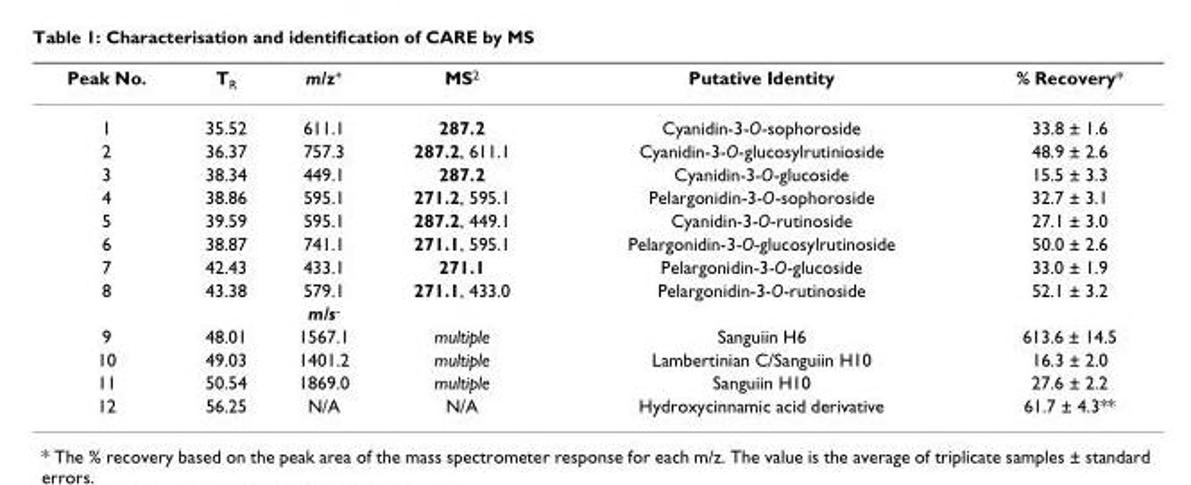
<table><thead><tr><td>Peak No.</td><td>T<sub>R</sub></td><td>m/z<sup>+</sup></td><td>MS<sup>2</sup></td><td>Putative Identity</td><td>% Recovery*</td></tr></thead><tbody><tr><td>1</td><td>35.52</td><td>611.1</td><td>287.2</td><td>Cyanidin-3-O-sophoroside</td><td>33.8 ± 1.6</td></tr><tr><td>2</td><td>36.37</td><td>757.3</td><td>287.2, 611.1</td><td>Cyanidin-3-O-glucosylrutinioside</td><td>48.9 ± 2.6</td></tr><tr><td>3</td><td>38.34</td><td>449.1</td><td>287.2</td><td>Cyanidin-3-O-glucoside</td><td>15.5 ± 3.3</td></tr><tr><td>4</td><td>38.86</td><td>595.1</td><td>271.2, 595.1</td><td>Pelargonidin-3-O-sophoroside</td><td>32.7 ± 3.1</td></tr><tr><td>5</td><td>39.59</td><td>595.1</td><td>287.2, 449.1</td><td>Cyanidin-3-O-rutinoside</td><td>27.1 ± 3.0</td></tr><tr><td>6</td><td>38.87</td><td>741.1</td><td>271.1, 595.1</td><td>Pelargonidin-3-O-glucosylrutinoside</td><td>50.0 ± 2.6</td></tr><tr><td>7</td><td>42.43</td><td>433.1</td><td>271.1</td><td>Pelargonidin-3-O-glucoside</td><td>33.0 ± 1.9</td></tr><tr><td rowspan="2">8</td><td>43.38</td><td>579.1</td><td>271.1, 433.0</td><td>Pelargonidin-3-O-rutinoside</td><td>52.1 ± 3.2</td></tr><tr><td></td><td>m/s<sup>-</sup></td><td></td><td></td><td></td></tr><tr><td>9</td><td>48.01</td><td>1567.1</td><td>multiple</td><td>Sanguiin H6</td><td>613.6 ± 14.5</td></tr><tr><td>10</td><td>49.03</td><td>1401.2</td><td>multiple</td><td>Lambertinian C/Sanguiin H10</td><td>16.3 ± 2.0</td></tr><tr><td>11</td><td>50.54</td><td>1869.0</td><td>multiple</td><td>Sanguiin H10</td><td>27.6 ± 2.2</td></tr><tr><td>12</td><td>56.25</td><td>N/A</td><td>N/A</td><td>Hydroxycinnamic acid derivative</td><td>61.7 ± 4.3**</td></tr></tbody></table>